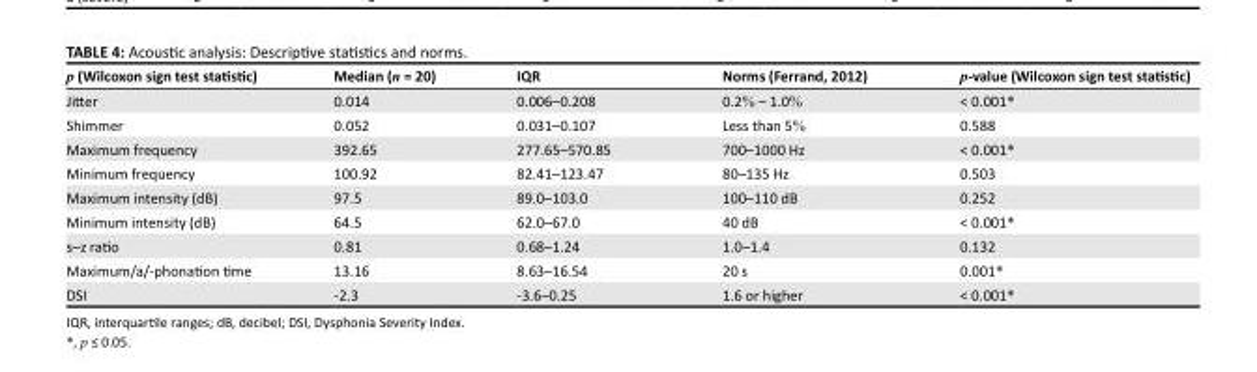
<table><thead><tr><td>p (Wilcoxon sign test statistic)</td><td>Median (n = 20)</td><td>IQR</td><td>Norms (Ferrand, 2012)</td><td>p-value (Wilcoxon sign test statistic)</td></tr></thead><tbody><tr><td>Jitter</td><td>0.014</td><td>0.006–0.208</td><td>0.2% – 1.0%</td><td>&lt; 0.001*</td></tr><tr><td>Shimmer</td><td>0.052</td><td>0.031–0.107</td><td>Less than 5%</td><td>0.588</td></tr><tr><td>Maximum frequency</td><td>392.65</td><td>277.65–570.85</td><td>700–1000 Hz</td><td>&lt; 0.001*</td></tr><tr><td>Minimum frequency</td><td>100.92</td><td>82.41–123.47</td><td>80–135 Hz</td><td>0.503</td></tr><tr><td>Maximum intensity (dB)</td><td>97.5</td><td>89.0–103.0</td><td>100–110 dB</td><td>0.252</td></tr><tr><td>Minimum intensity (dB)</td><td>64.5</td><td>62.0–67.0</td><td>40 dB</td><td>&lt; 0.001*</td></tr><tr><td>s–z ratio</td><td>0.81</td><td>0.68–1.24</td><td>1.0–1.4</td><td>0.132</td></tr><tr><td>Maximum/a/-phonation time</td><td>13.16</td><td>8.63–16.54</td><td>20 s</td><td>0.001*</td></tr><tr><td>DSI</td><td>-2.3</td><td>-3.6–0.25</td><td>1.6 or higher</td><td>&lt; 0.001*</td></tr></tbody></table>